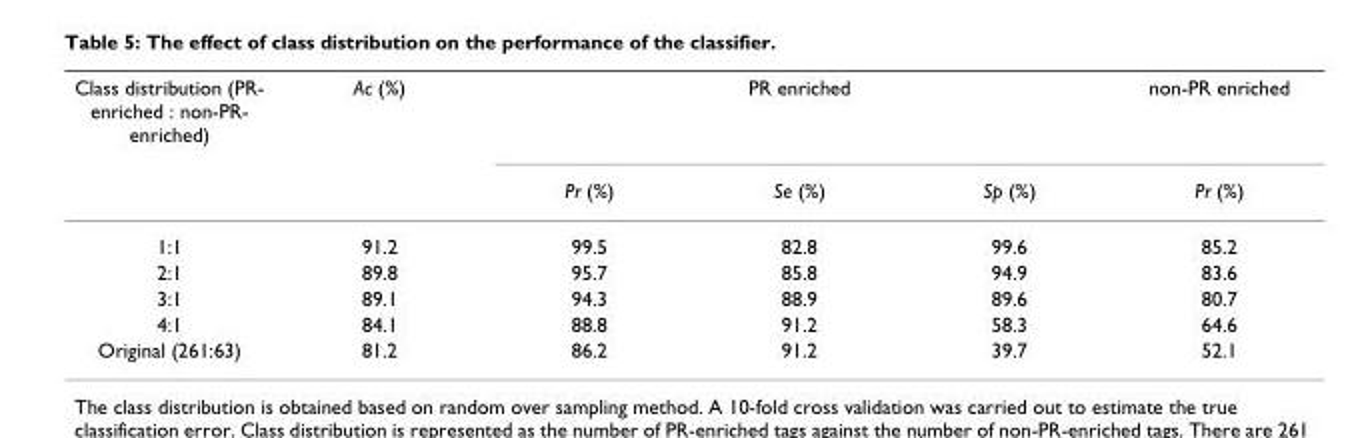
<table><thead><tr><td rowspan="2">Class distribution (PR- enriched : non-PR- enriched)</td><td rowspan="2">Ac (%)</td><td colspan="3">PR enriched</td><td rowspan="2">non-PR enriched Pr (%)</td></tr><tr><td>Pr (%)</td><td>Se (%)</td><td>Sp (%)</td></tr></thead><tbody><tr><td>1:1</td><td>91.2</td><td>99.5</td><td>82.8</td><td>99.6</td><td>85.2</td></tr><tr><td>2:1</td><td>89.8</td><td>95.7</td><td>85.8</td><td>94.9</td><td>83.6</td></tr><tr><td>3:1</td><td>89.1</td><td>94.3</td><td>88.9</td><td>89.6</td><td>80.7</td></tr><tr><td>4:1</td><td>84.1</td><td>88.8</td><td>91.2</td><td>58.3</td><td>64.6</td></tr><tr><td>Original (261:63)</td><td>81.2</td><td>86.2</td><td>91.2</td><td>39.7</td><td>52.1</td></tr></tbody></table>